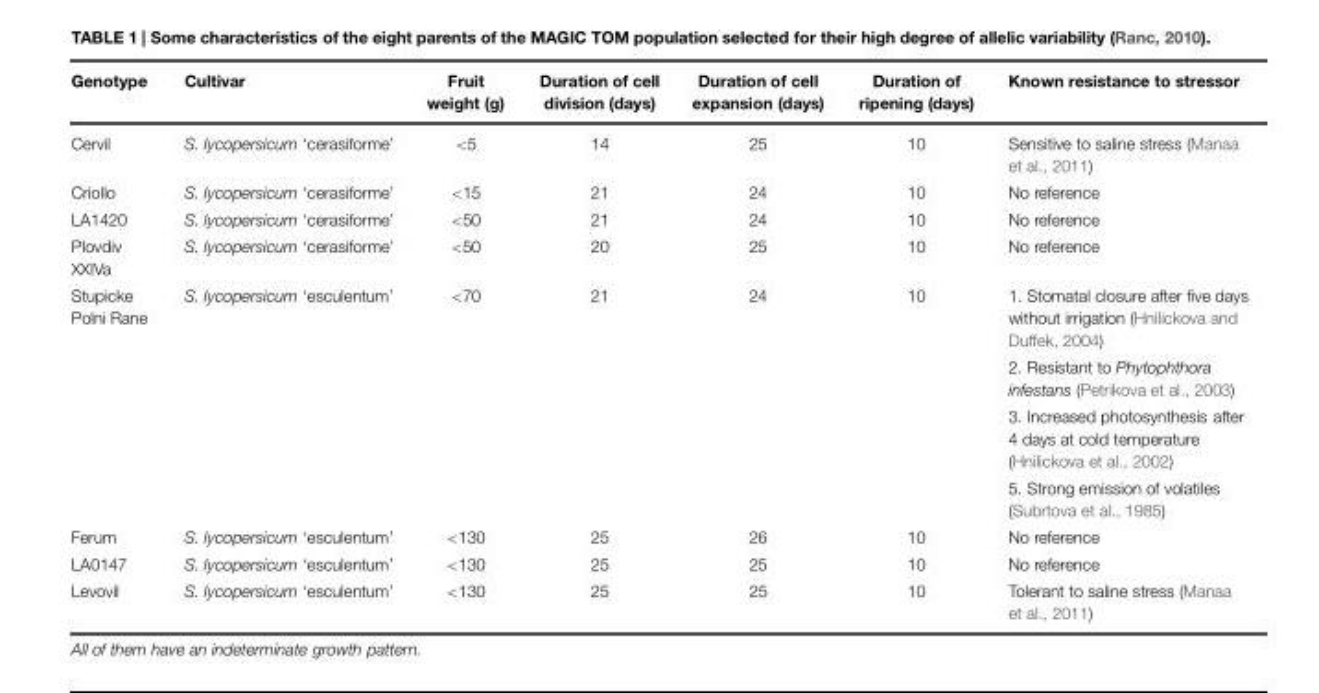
<table><thead><tr><td>Genotype</td><td>Cultivar</td><td>Fruit weight (g)</td><td>Duration of cell division (days)</td><td>Duration of cell expansion (days)</td><td>Duration of ripening (days)</td><td>Known resistance to stressor</td></tr></thead><tbody><tr><td>Cervil</td><td>S. lycopersicum ‘cerasiforme’</td><td>&lt;5</td><td>14</td><td>25</td><td>10</td><td>Sensitive to saline stress (Manaa et al., 2011)</td></tr><tr><td>Criollo</td><td>S. lycopersicum ‘cerasiforme’</td><td>&lt;15</td><td>21</td><td>24</td><td>10</td><td>No reference</td></tr><tr><td>LA1420</td><td>S. lycopersicum ‘cerasiforme’</td><td>&lt;50</td><td>21</td><td>24</td><td>10</td><td>No reference</td></tr><tr><td>Plovdiv XXIVa</td><td>S. lycopersicum ‘cerasiforme’</td><td>&lt;50</td><td>20</td><td>25</td><td>10</td><td>No reference</td></tr><tr><td rowspan="4">Stupicke Polni Rane</td><td>S. lycopersicum ‘esculentum’</td><td>&lt;70</td><td>21</td><td>24</td><td>10</td><td>1. Stomatal closure after five days without irrigation (Hnilickova and Duffek, 2004)</td></tr><tr><td></td><td></td><td></td><td></td><td></td><td>2. Resistant to Phytophthora infestans (Petrikova et al., 2003)</td></tr><tr><td></td><td></td><td></td><td></td><td></td><td>3. Increased photosynthesis after 4 days at cold temperature (Hnilickova et al., 2002)</td></tr><tr><td></td><td></td><td></td><td></td><td></td><td>5. Strong emission of volatiles (Subrtova et al., 1985)</td></tr><tr><td>Ferum</td><td>S. lycopersicum ‘esculentum’</td><td>&lt;130</td><td>25</td><td>26</td><td>10</td><td>No reference</td></tr><tr><td>LA0147</td><td>S. lycopersicum ‘esculentum’</td><td>&lt;130</td><td>25</td><td>25</td><td>10</td><td>No reference</td></tr><tr><td>Levovil</td><td>S. lycopersicum ‘esculentum’</td><td>&lt;130</td><td>25</td><td>25</td><td>10</td><td>Tolerant to saline stress (Manaa et al., 2011)</td></tr></tbody></table>